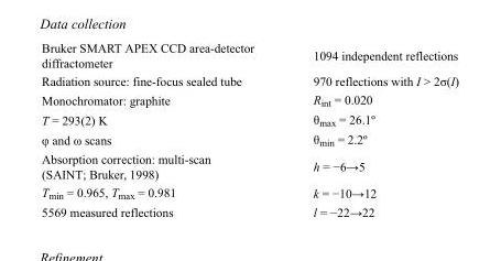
<table><tbody><tr><td>Bruker SMART APEX CCD area-detector diffractometer</td><td>1094 independent reflections</td></tr><tr><td>Radiation source: fine-focus sealed tube</td><td>970 reflections with I &gt; 2σ(I)</td></tr><tr><td>Monochromator: graphite</td><td>R<sub>int</sub> = 0.020</td></tr><tr><td>T = 293(2) K</td><td>θ<sub>max</sub> = 26.1º</td></tr><tr><td>φ and ω scans</td><td>θ<sub>min</sub> = 2.2º</td></tr><tr><td>Absorption correction: multi-scan (SAINT; Bruker, 1998)</td><td>h = −6→5</td></tr><tr><td>T<sub>min</sub> = 0.965, T<sub>max</sub> = 0.981</td><td>k = −10→12</td></tr><tr><td>5569 measured reflections</td><td>l = −22→22</td></tr></tbody></table>